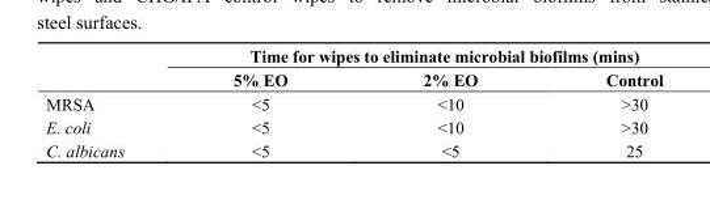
<table><thead><tr><td rowspan="2"></td><td colspan="3">Time for wipes to eliminate microbial biofilms (mins)</td></tr><tr><td>5% EO</td><td>2% EO</td><td>Control</td></tr></thead><tbody><tr><td>MRSA</td><td>&lt;5</td><td>&lt;10</td><td>&gt;30</td></tr><tr><td>E. coli</td><td>&lt;5</td><td>&lt;10</td><td>&gt;30</td></tr><tr><td>C. albicans</td><td>&lt;5</td><td>&lt;5</td><td>25</td></tr></tbody></table>